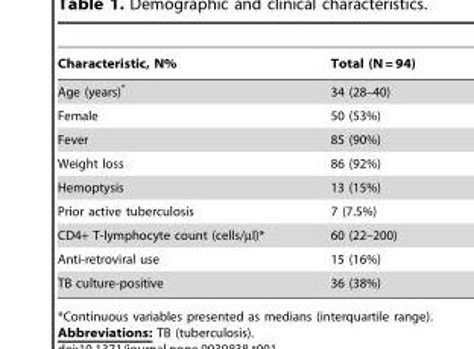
<table><thead><tr><td>Characteristic, N%</td><td>Total (N = 94)</td></tr></thead><tbody><tr><td>Age (years)*</td><td>34 (28–40)</td></tr><tr><td>Female</td><td>50 (53%)</td></tr><tr><td>Fever</td><td>85 (90%)</td></tr><tr><td>Weight loss</td><td>86 (92%)</td></tr><tr><td>Hemoptysis</td><td>13 (15%)</td></tr><tr><td>Prior active tuberculosis</td><td>7 (7.5%)</td></tr><tr><td>CD4+ T-lymphocyte count (cells/µl)*</td><td>60 (22–200)</td></tr><tr><td>Anti-retroviral use</td><td>15 (16%)</td></tr><tr><td>TB culture-positive</td><td>36 (38%)</td></tr></tbody></table>